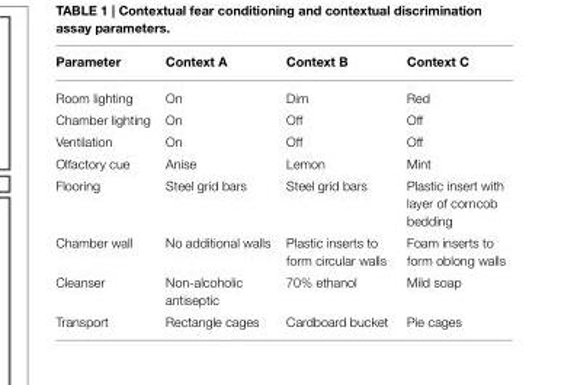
<table><thead><tr><td>Parameter</td><td>Context A</td><td>Context B</td><td>Context C</td></tr></thead><tbody><tr><td>Room lighting</td><td>On</td><td>Dim</td><td>Red</td></tr><tr><td>Chamber lighting</td><td>On</td><td>Off</td><td>Off</td></tr><tr><td>Ventilation</td><td>On</td><td>Off</td><td>Off</td></tr><tr><td>Olfactory cue</td><td>Anise</td><td>Lemon</td><td>Mint</td></tr><tr><td>Flooring</td><td>Steel grid bars</td><td>Steel grid bars</td><td>Plastic insert with layer of corncob bedding</td></tr><tr><td>Chamber wall</td><td>No additional walls</td><td>Plastic inserts to form circular walls</td><td>Foam inserts to form oblong walls</td></tr><tr><td>Cleanser</td><td>Non-alcoholic antiseptic</td><td>70% ethanol</td><td>Mild soap</td></tr><tr><td>Transport</td><td>Rectangle cages</td><td>Cardboard bucket</td><td>Pie cages</td></tr></tbody></table>